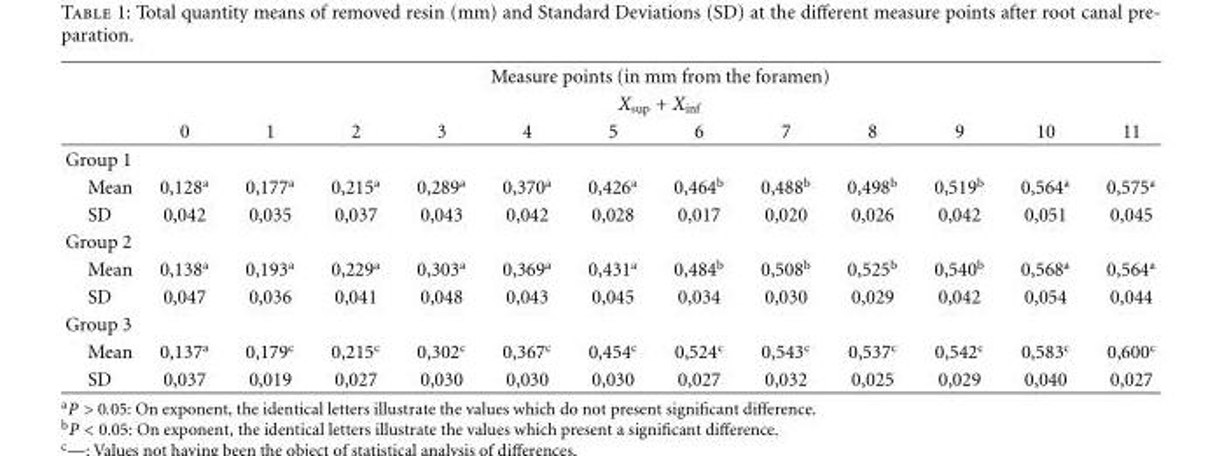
<table><thead><tr><td rowspan="3"></td><td rowspan="2" colspan="12">Measure points (in mm from the foramen) X<sub>sup</sub> + X<sub>inf</sub></td></tr><tr></tr><tr><td>0</td><td>1</td><td>2</td><td>3</td><td>4</td><td>5</td><td>6</td><td>7</td><td>8</td><td>9</td><td>10</td><td>11</td></tr></thead><tbody><tr><td colspan="13">Group 1</td></tr><tr><td>Mean</td><td>0,128<sup>a</sup></td><td>0,177<sup>a</sup></td><td>0,215<sup>a</sup></td><td>0,289<sup>a</sup></td><td>0,370<sup>a</sup></td><td>0,426<sup>a</sup></td><td>0,464<sup>b</sup></td><td>0,488<sup>b</sup></td><td>0,498<sup>b</sup></td><td>0,519<sup>b</sup></td><td>0,564<sup>a</sup></td><td>0,575<sup>a</sup></td></tr><tr><td>SD</td><td>0,042</td><td>0,035</td><td>0,037</td><td>0,043</td><td>0,042</td><td>0,028</td><td>0,017</td><td>0,020</td><td>0,026</td><td>0,042</td><td>0,051</td><td>0,045</td></tr><tr><td colspan="13">Group 2</td></tr><tr><td>Mean</td><td>0,138<sup>a</sup></td><td>0,193<sup>a</sup></td><td>0,229<sup>a</sup></td><td>0,303<sup>a</sup></td><td>0,369<sup>a</sup></td><td>0,431<sup>a</sup></td><td>0,484<sup>b</sup></td><td>0,508<sup>b</sup></td><td>0,525<sup>b</sup></td><td>0,540<sup>b</sup></td><td>0,568<sup>a</sup></td><td>0,564<sup>a</sup></td></tr><tr><td>SD</td><td>0,047</td><td>0,036</td><td>0,041</td><td>0,048</td><td>0,043</td><td>0,045</td><td>0,034</td><td>0,030</td><td>0,029</td><td>0,042</td><td>0,054</td><td>0,044</td></tr><tr><td colspan="13">Group 3</td></tr><tr><td>Mean</td><td>0,137<sup>a</sup></td><td>0,179<sup>c</sup></td><td>0,215<sup>c</sup></td><td>0,302<sup>c</sup></td><td>0,367<sup>c</sup></td><td>0,454<sup>c</sup></td><td>0,524<sup>c</sup></td><td>0,543<sup>c</sup></td><td>0,537<sup>c</sup></td><td>0,542<sup>c</sup></td><td>0,583<sup>c</sup></td><td>0,600<sup>c</sup></td></tr><tr><td>SD</td><td>0,037</td><td>0,019</td><td>0,027</td><td>0,030</td><td>0,030</td><td>0,030</td><td>0,027</td><td>0,032</td><td>0,025</td><td>0,029</td><td>0,040</td><td>0,027</td></tr></tbody></table>